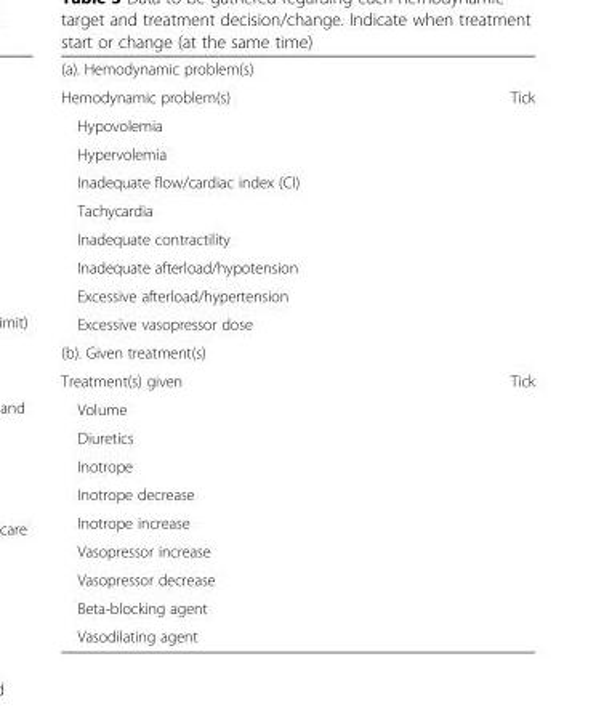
<table><tbody><tr><td colspan="2">(a). Hemodynamic problem(s)</td></tr><tr><td>Hemodynamic problem(s)</td><td>Tick</td></tr><tr><td colspan="2">Hypovolemia</td></tr><tr><td colspan="2">Hypervolemia</td></tr><tr><td colspan="2">Inadequate flow/cardiac index (CI)</td></tr><tr><td colspan="2">Tachycardia</td></tr><tr><td colspan="2">Inadequate contractility</td></tr><tr><td colspan="2">Inadequate afterload/hypotension</td></tr><tr><td colspan="2">Excessive afterload/hypertension</td></tr><tr><td colspan="2">Excessive vasopressor dose</td></tr><tr><td colspan="2">(b). Given treatment(s)</td></tr><tr><td>Treatment(s) given</td><td>Tick</td></tr><tr><td colspan="2">Volume</td></tr><tr><td colspan="2">Diuretics</td></tr><tr><td colspan="2">Inotrope</td></tr><tr><td colspan="2">Inotrope decrease</td></tr><tr><td colspan="2">Inotrope increase</td></tr><tr><td colspan="2">Vasopressor increase</td></tr><tr><td colspan="2">Vasopressor decrease</td></tr><tr><td colspan="2">Beta-blocking agent</td></tr><tr><td>Vasodilating agent</td><td></td></tr></tbody></table>